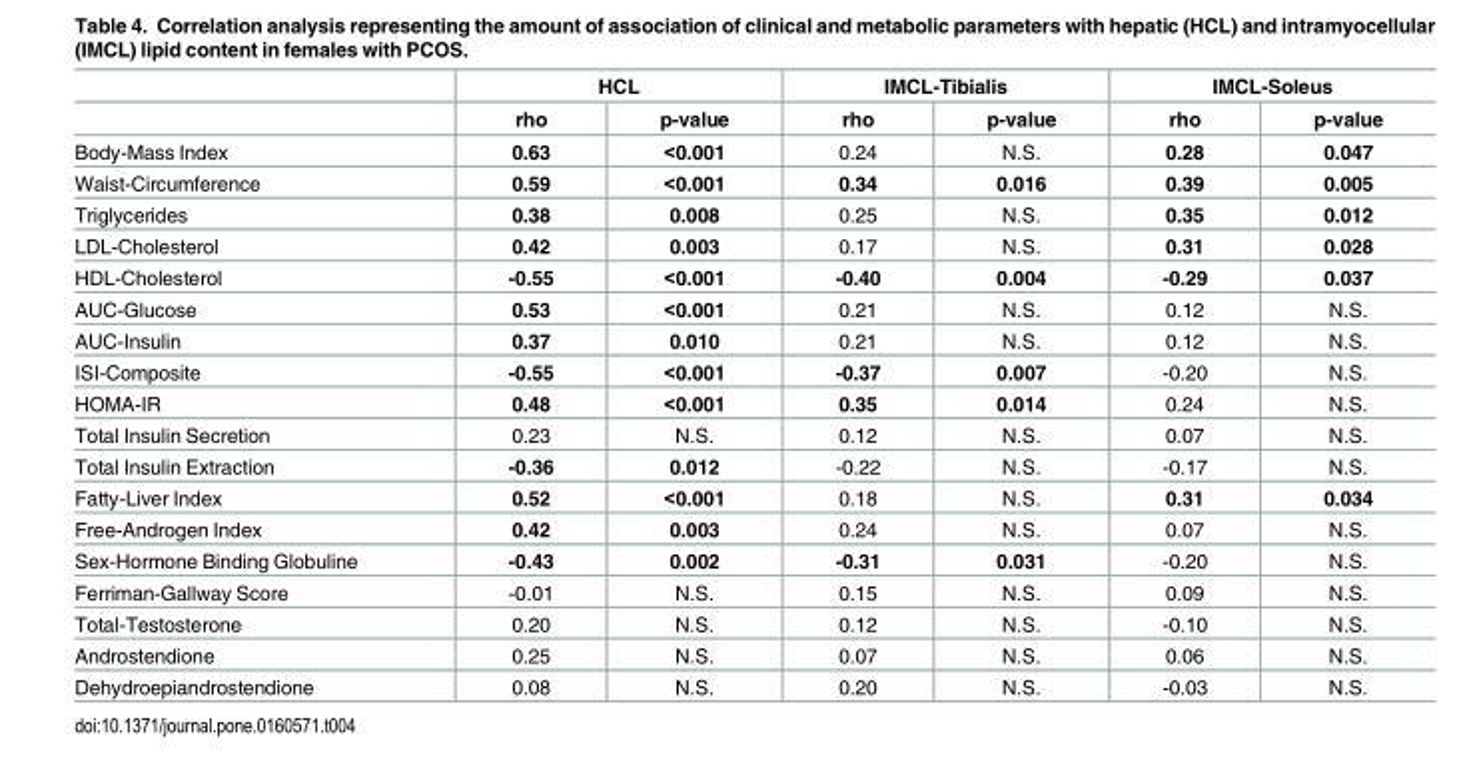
<table><thead><tr><td rowspan="2"></td><td colspan="2">HCL</td><td colspan="2">IMCL-Tibialis</td><td colspan="2">IMCL-Soleus</td></tr><tr><td>rho</td><td>p-value</td><td>rho</td><td>p-value</td><td>rho</td><td>p-value</td></tr></thead><tbody><tr><td>Body-Mass Index</td><td>0.63</td><td>&lt;0.001</td><td>0.24</td><td>N.S.</td><td>0.28</td><td>0.047</td></tr><tr><td>Waist-Circumference</td><td>0.59</td><td>&lt;0.001</td><td>0.34</td><td>0.016</td><td>0.39</td><td>0.005</td></tr><tr><td>Triglycerides</td><td>0.38</td><td>0.008</td><td>0.25</td><td>N.S.</td><td>0.35</td><td>0.012</td></tr><tr><td>LDL-Cholesterol</td><td>0.42</td><td>0.003</td><td>0.17</td><td>N.S.</td><td>0.31</td><td>0.028</td></tr><tr><td>HDL-Cholesterol</td><td>-0.55</td><td>&lt;0.001</td><td>-0.40</td><td>0.004</td><td>-0.29</td><td>0.037</td></tr><tr><td>AUC-Glucose</td><td>0.53</td><td>&lt;0.001</td><td>0.21</td><td>N.S.</td><td>0.12</td><td>N.S.</td></tr><tr><td>AUC-Insulin</td><td>0.37</td><td>0.010</td><td>0.21</td><td>N.S.</td><td>0.12</td><td>N.S.</td></tr><tr><td>ISI-Composite</td><td>-0.55</td><td>&lt;0.001</td><td>-0.37</td><td>0.007</td><td>-0.20</td><td>N.S.</td></tr><tr><td>HOMA-IR</td><td>0.48</td><td>&lt;0.001</td><td>0.35</td><td>0.014</td><td>0.24</td><td>N.S.</td></tr><tr><td>Total Insulin Secretion</td><td>0.23</td><td>N.S.</td><td>0.12</td><td>N.S.</td><td>0.07</td><td>N.S.</td></tr><tr><td>Total Insulin Extraction</td><td>-0.36</td><td>0.012</td><td>-0.22</td><td>N.S.</td><td>-0.17</td><td>N.S.</td></tr><tr><td>Fatty-Liver Index</td><td>0.52</td><td>&lt;0.001</td><td>0.18</td><td>N.S.</td><td>0.31</td><td>0.034</td></tr><tr><td>Free-Androgen Index</td><td>0.42</td><td>0.003</td><td>0.24</td><td>N.S.</td><td>0.07</td><td>N.S.</td></tr><tr><td>Sex-Hormone Binding Globuline</td><td>-0.43</td><td>0.002</td><td>-0.31</td><td>0.031</td><td>-0.20</td><td>N.S.</td></tr><tr><td>Ferriman-Gallway Score</td><td>-0.01</td><td>N.S.</td><td>0.15</td><td>N.S.</td><td>0.09</td><td>N.S.</td></tr><tr><td>Total-Testosterone</td><td>0.20</td><td>N.S.</td><td>0.12</td><td>N.S.</td><td>-0.10</td><td>N.S.</td></tr><tr><td>Androstendione</td><td>0.25</td><td>N.S.</td><td>0.07</td><td>N.S.</td><td>0.06</td><td>N.S.</td></tr><tr><td>Dehydroepiandrostendione</td><td>0.08</td><td>N.S.</td><td>0.20</td><td>N.S.</td><td>-0.03</td><td>N.S.</td></tr></tbody></table>